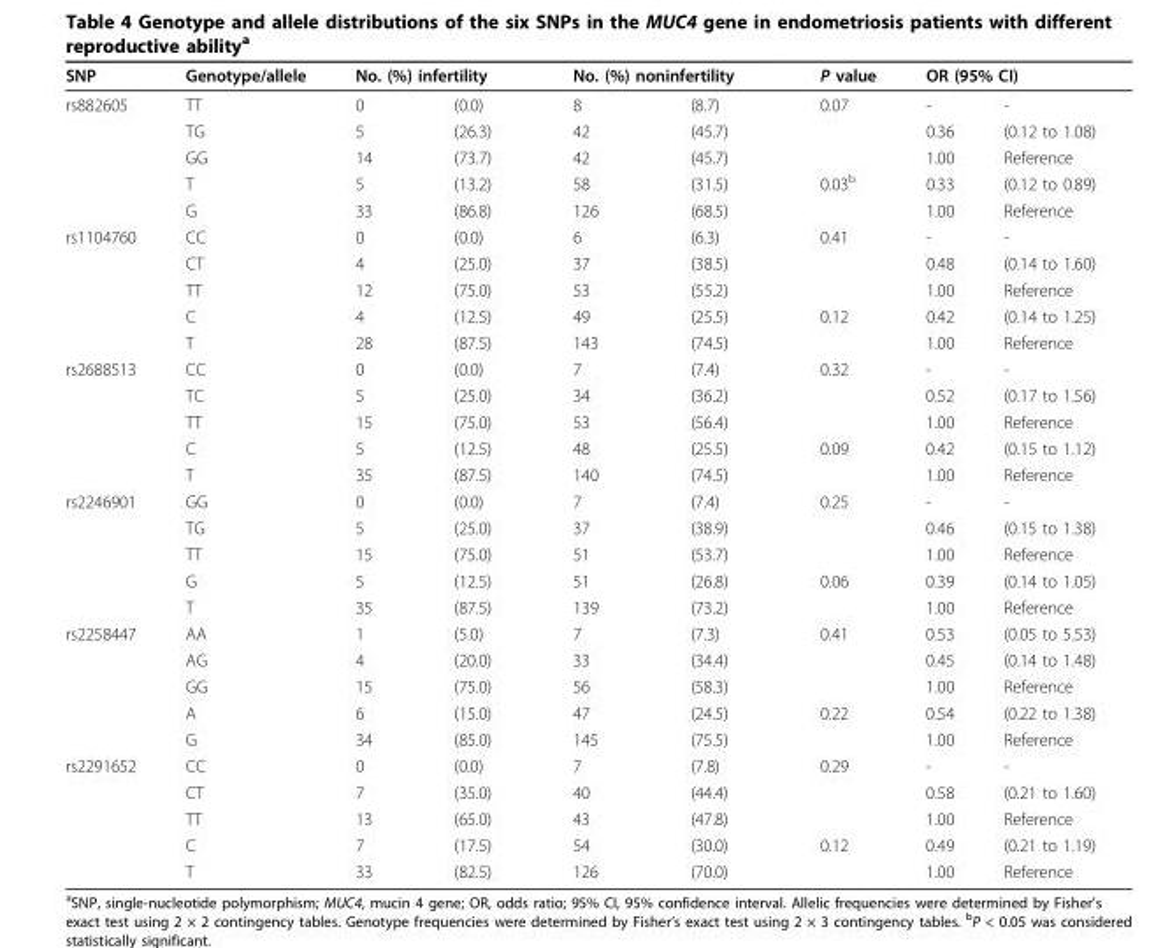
<table><thead><tr><td rowspan="2">SNP rs882605</td><td rowspan="2">Genotype/allele TT</td><td colspan="2">No. (%) infertility</td><td colspan="2">No. (%) noninfertility</td><td rowspan="2">P value 0.07</td><td colspan="2">OR (95% CI)</td></tr><tr><td>0</td><td>(0.0)</td><td>8</td><td>(8.7)</td><td>-</td><td>-</td></tr></thead><tbody><tr><td></td><td>TG</td><td>5</td><td>(26.3)</td><td>42</td><td>(45.7)</td><td></td><td>0.36</td><td>(0.12 to 1.08)</td></tr><tr><td></td><td>GG</td><td>14</td><td>(73.7)</td><td>42</td><td>(45.7)</td><td></td><td>1.00</td><td>Reference</td></tr><tr><td></td><td>T</td><td>5</td><td>(13.2)</td><td>58</td><td>(31.5)</td><td>0.03<sup>b</sup></td><td>0.33</td><td>(0.12 to 0.89)</td></tr><tr><td></td><td>G</td><td>33</td><td>(86.8)</td><td>126</td><td>(68.5)</td><td></td><td>1.00</td><td>Reference</td></tr><tr><td rowspan="5">rs1104760</td><td>CC</td><td>0</td><td>(0.0)</td><td>6</td><td>(6.3)</td><td>0.41</td><td>-</td><td>-</td></tr><tr><td>CT</td><td>4</td><td>(25.0)</td><td>37</td><td>(38.5)</td><td></td><td>0.48</td><td>(0.14 to 1.60)</td></tr><tr><td>TT</td><td>12</td><td>(75.0)</td><td>53</td><td>(55.2)</td><td></td><td>1.00</td><td>Reference</td></tr><tr><td>C</td><td>4</td><td>(12.5)</td><td>49</td><td>(25.5)</td><td>0.12</td><td>0.42</td><td>(0.14 to 1.25)</td></tr><tr><td>T</td><td>28</td><td>(87.5)</td><td>143</td><td>(74.5)</td><td></td><td>1.00</td><td>Reference</td></tr><tr><td rowspan="5">rs2688513</td><td>CC</td><td>0</td><td>(0.0)</td><td>7</td><td>(7.4)</td><td>0.32</td><td>-</td><td>-</td></tr><tr><td>TC</td><td>5</td><td>(25.0)</td><td>34</td><td>(36.2)</td><td></td><td>0.52</td><td>(0.17 to 1.56)</td></tr><tr><td>TT</td><td>15</td><td>(75.0)</td><td>53</td><td>(56.4)</td><td></td><td>1.00</td><td>Reference</td></tr><tr><td>C</td><td>5</td><td>(12.5)</td><td>48</td><td>(25.5)</td><td>0.09</td><td>0.42</td><td>(0.15 to 1.12)</td></tr><tr><td>T</td><td>35</td><td>(87.5)</td><td>140</td><td>(74.5)</td><td></td><td>1.00</td><td>Reference</td></tr><tr><td rowspan="5">rs2246901</td><td>GG</td><td>0</td><td>(0.0)</td><td>7</td><td>(7.4)</td><td>0.25</td><td>-</td><td>-</td></tr><tr><td>TG</td><td>5</td><td>(25.0)</td><td>37</td><td>(38.9)</td><td></td><td>0.46</td><td>(0.15 to 1.38)</td></tr><tr><td>TT</td><td>15</td><td>(75.0)</td><td>51</td><td>(53.7)</td><td></td><td>1.00</td><td>Reference</td></tr><tr><td>G</td><td>5</td><td>(12.5)</td><td>51</td><td>(26.8)</td><td>0.06</td><td>0.39</td><td>(0.14 to 1.05)</td></tr><tr><td>T</td><td>35</td><td>(87.5)</td><td>139</td><td>(73.2)</td><td></td><td>1.00</td><td>Reference</td></tr><tr><td rowspan="5">rs2258447</td><td>AA</td><td>1</td><td>(5.0)</td><td>7</td><td>(7.3)</td><td>0.41</td><td>0.53</td><td>(0.05 to 5.53)</td></tr><tr><td>AG</td><td>4</td><td>(20.0)</td><td>33</td><td>(34.4)</td><td></td><td>0.45</td><td>(0.14 to 1.48)</td></tr><tr><td>GG</td><td>15</td><td>(75.0)</td><td>56</td><td>(58.3)</td><td></td><td>1.00</td><td>Reference</td></tr><tr><td>A</td><td>6</td><td>(15.0)</td><td>47</td><td>(24.5)</td><td>0.22</td><td>0.54</td><td>(0.22 to 1.38)</td></tr><tr><td>G</td><td>34</td><td>(85.0)</td><td>145</td><td>(75.5)</td><td></td><td>1.00</td><td>Reference</td></tr><tr><td rowspan="5">rs2291652</td><td>CC</td><td>0</td><td>(0.0)</td><td>7</td><td>(7.8)</td><td>0.29</td><td>-</td><td>-</td></tr><tr><td>CT</td><td>7</td><td>(35.0)</td><td>40</td><td>(44.4)</td><td></td><td>0.58</td><td>(0.21 to 1.60)</td></tr><tr><td>TT</td><td>13</td><td>(65.0)</td><td>43</td><td>(47.8)</td><td></td><td>1.00</td><td>Reference</td></tr><tr><td>C</td><td>7</td><td>(17.5)</td><td>54</td><td>(30.0)</td><td>0.12</td><td>0.49</td><td>(0.21 to 1.19)</td></tr><tr><td>T</td><td>33</td><td>(82.5)</td><td>126</td><td>(70.0)</td><td></td><td>1.00</td><td>Reference</td></tr></tbody></table>